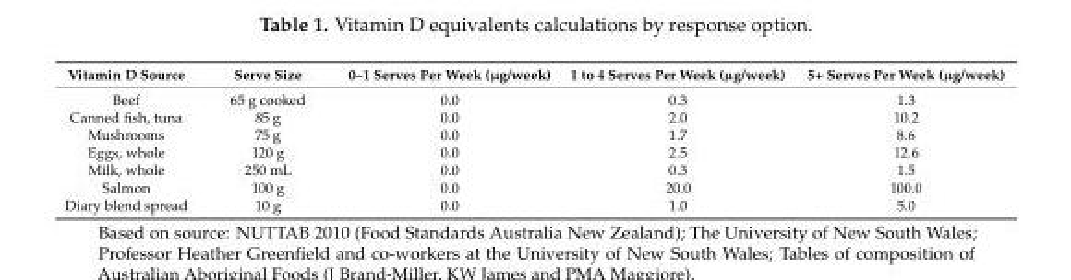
<table><thead><tr><td>Vitamin D Source</td><td>Serve Size</td><td>0–1 Serves Per Week (µg/week)</td><td>1 to 4 Serves Per Week (µg/week)</td><td>5+ Serves Per Week (µg/week)</td></tr></thead><tbody><tr><td>Beef</td><td>65 g cooked</td><td>0.0</td><td>0.3</td><td>1.3</td></tr><tr><td>Canned fish, tuna</td><td>85 g</td><td>0.0</td><td>2.0</td><td>10.2</td></tr><tr><td>Mushrooms</td><td>75 g</td><td>0.0</td><td>1.7</td><td>8.6</td></tr><tr><td>Eggs, whole</td><td>120 g</td><td>0.0</td><td>2.5</td><td>12.6</td></tr><tr><td>Milk, whole</td><td>250 mL</td><td>0.0</td><td>0.3</td><td>1.5</td></tr><tr><td>Salmon</td><td>100 g</td><td>0.0</td><td>20.0</td><td>100.0</td></tr><tr><td>Diary blend spread</td><td>10 g</td><td>0.0</td><td>1.0</td><td>5.0</td></tr></tbody></table>